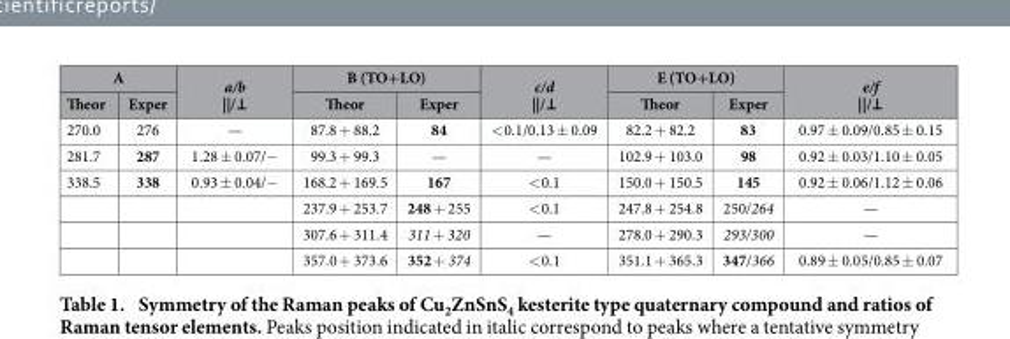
<table><thead><tr><td colspan="2">A</td><td rowspan="2">a/b ||/⊥</td><td colspan="2">B (TO+LO)</td><td rowspan="2">c/d ||/⊥</td><td colspan="2">E (TO+LO)</td><td rowspan="2">e/f ||/⊥</td></tr><tr><td>Theor</td><td>Exper</td><td>Theor</td><td>Exper</td><td>Theor</td><td>Exper</td></tr></thead><tbody><tr><td>270.0</td><td>276</td><td>—</td><td>87.8 + 88.2</td><td>84</td><td>&lt; 0.1/0.13 ± 0.09</td><td>82.2 + 82.2</td><td>83</td><td>0.97 ± 0.09/0.85 ± 0.15</td></tr><tr><td>281.7</td><td>287</td><td>1.28 ± 0.07/−</td><td>99.3 + 99.3</td><td>—</td><td>—</td><td>102.9 + 103.0</td><td>98</td><td>0.92 ± 0.03/1.10 ± 0.05</td></tr><tr><td rowspan="4">338.5</td><td>338</td><td>0.93 ± 0.04/−</td><td>168.2 + 169.5</td><td>167</td><td>&lt; 0.1</td><td>150.0 + 150.5</td><td>145</td><td>0.92 ± 0.06/1.12 ± 0.06</td></tr><tr><td></td><td></td><td>237.9 + 253.7</td><td>248 + 255</td><td>&lt; 0.1</td><td>247.8 + 254.8</td><td>250/264</td><td>—</td></tr><tr><td></td><td></td><td>307.6 + 311.4</td><td>311 + 320</td><td>—</td><td>278.0 + 290.3</td><td>293/300</td><td>—</td></tr><tr><td></td><td></td><td>357.0 + 373.6</td><td>352 + 374</td><td>&lt; 0.1</td><td>351.1 + 365.3</td><td>347/366</td><td>0.89 ± 0.05/0.85 ± 0.07</td></tr></tbody></table>